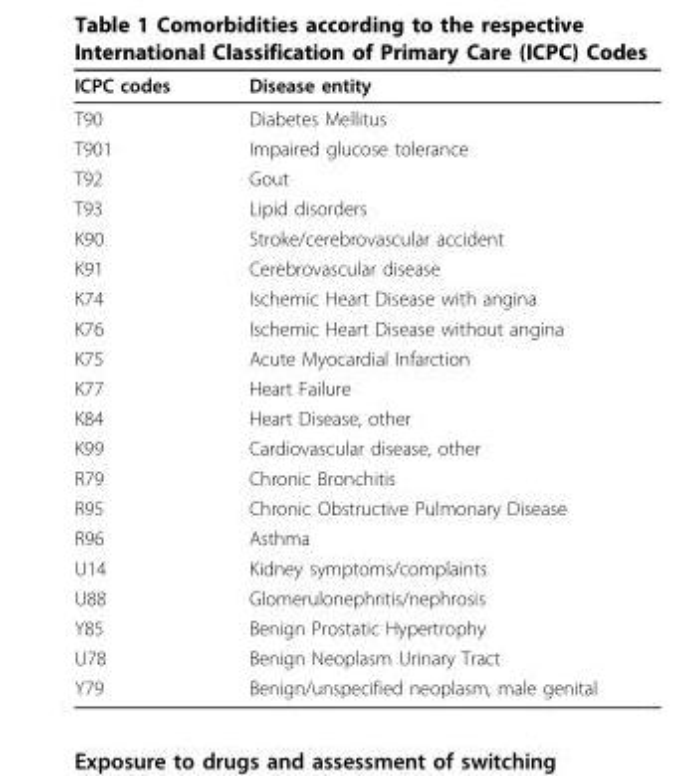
<table><thead><tr><td>ICPC codes</td><td>Disease entity</td></tr></thead><tbody><tr><td>T90</td><td>Diabetes Mellitus</td></tr><tr><td>T901</td><td>Impaired glucose tolerance</td></tr><tr><td>T92</td><td>Gout</td></tr><tr><td>T93</td><td>Lipid disorders</td></tr><tr><td>K90</td><td>Stroke/cerebrovascular accident</td></tr><tr><td>K91</td><td>Cerebrovascular disease</td></tr><tr><td>K74</td><td>Ischemic Heart Disease with angina</td></tr><tr><td>K76</td><td>Ischemic Heart Disease without angina</td></tr><tr><td>K75</td><td>Acute Myocardial Infarction</td></tr><tr><td>K77</td><td>Heart Failure</td></tr><tr><td>K84</td><td>Heart Disease, other</td></tr><tr><td>K99</td><td>Cardiovascular disease, other</td></tr><tr><td>R79</td><td>Chronic Bronchitis</td></tr><tr><td>R95</td><td>Chronic Obstructive Pulmonary Disease</td></tr><tr><td>R96</td><td>Asthma</td></tr><tr><td>U14</td><td>Kidney symptoms/complaints</td></tr><tr><td>U88</td><td>Glomerulonephritis/nephrosis</td></tr><tr><td>Y85</td><td>Benign Prostatic Hypertrophy</td></tr><tr><td>U78</td><td>Benign Neoplasm Urinary Tract</td></tr><tr><td>Y79</td><td>Benign/unspecified neoplasm, male genital</td></tr></tbody></table>